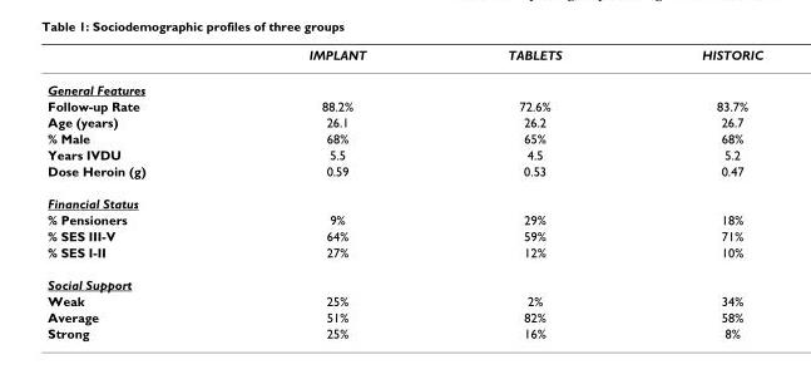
<table><thead><tr><td></td><td>IMPLANT</td><td>TABLETS</td><td>HISTORIC</td></tr></thead><tbody><tr><td colspan="4">General Features</td></tr><tr><td>Follow-up Rate</td><td>88.2%</td><td>72.6%</td><td>83.7%</td></tr><tr><td>Age (years)</td><td>26.1</td><td>26.2</td><td>26.7</td></tr><tr><td>% Male</td><td>68%</td><td>65%</td><td>68%</td></tr><tr><td>Years IVDU</td><td>5.5</td><td>4.5</td><td>5.2</td></tr><tr><td>Dose Heroin (g)</td><td>0.59</td><td>0.53</td><td>0.47</td></tr><tr><td colspan="4">Financial Status</td></tr><tr><td>% Pensioners</td><td>9%</td><td>29%</td><td>18%</td></tr><tr><td>% SES III-V</td><td>64%</td><td>59%</td><td>71%</td></tr><tr><td>% SES I-II</td><td>27%</td><td>12%</td><td>10%</td></tr><tr><td colspan="4">Social Support</td></tr><tr><td>Weak</td><td>25%</td><td>2%</td><td>34%</td></tr><tr><td>Average</td><td>51%</td><td>82%</td><td>58%</td></tr><tr><td>Strong</td><td>25%</td><td>16%</td><td>8%</td></tr></tbody></table>